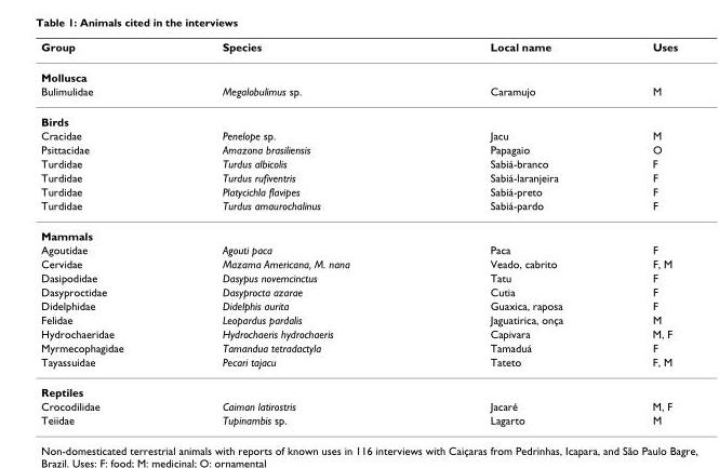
<table><thead><tr><td>Group</td><td>Species</td><td>Local name</td><td>Uses</td></tr></thead><tbody><tr><td colspan="4">Mollusca</td></tr><tr><td>Bulimulidae</td><td>Megalobulimus sp.</td><td>Caramujo</td><td>M</td></tr><tr><td colspan="4">Birds</td></tr><tr><td>Cracidae</td><td>Penelope sp.</td><td>Jacu</td><td>M</td></tr><tr><td>Psittacidae</td><td>Amazona brasiliensis</td><td>Papagaio</td><td>O</td></tr><tr><td>Turdidae</td><td>Turdus albicolis</td><td>Sabiá-branco</td><td>F</td></tr><tr><td>Turdidae</td><td>Turdus rufiventris</td><td>Sabiá-laranjeira</td><td>F</td></tr><tr><td>Turdidae</td><td>Platycichla flavipes</td><td>Sabiá-preto</td><td>F</td></tr><tr><td>Turdidae</td><td>Turdus amaurochalinus</td><td>Sabiá-pardo</td><td>F</td></tr><tr><td colspan="4">Mammals</td></tr><tr><td>Agoutidae</td><td>Agouti paca</td><td>Paca</td><td>F</td></tr><tr><td>Cervidae</td><td>Mazama Americana, M. nana</td><td>Veado, cabrito</td><td>F, M</td></tr><tr><td>Dasipodidae</td><td>Dasypus novemcinctus</td><td>Tatu</td><td>F</td></tr><tr><td>Dasyproctidae</td><td>Dasyprocta azarae</td><td>Cutia</td><td>F</td></tr><tr><td>Didelphidae</td><td>Didelphis aurita</td><td>Guaxica, raposa</td><td>F</td></tr><tr><td>Felidae</td><td>Leopardus pardalis</td><td>Jaguatirica, onça</td><td>M</td></tr><tr><td>Hydrochaeridae</td><td>Hydrochaeris hydrochaeris</td><td>Capivara</td><td>M, F</td></tr><tr><td>Myrmecophagidae</td><td>Tamandua tetradactyla</td><td>Tamaduá</td><td>F</td></tr><tr><td>Tayassuidae</td><td>Pecari tajacu</td><td>Tateto</td><td>F, M</td></tr><tr><td colspan="4">Reptiles</td></tr><tr><td>Crocodilidae</td><td>Caiman latirostris</td><td>Jacaré</td><td>M, F</td></tr><tr><td>Teiidae</td><td>Tupinambis sp.</td><td>Lagarto</td><td>M</td></tr></tbody></table>